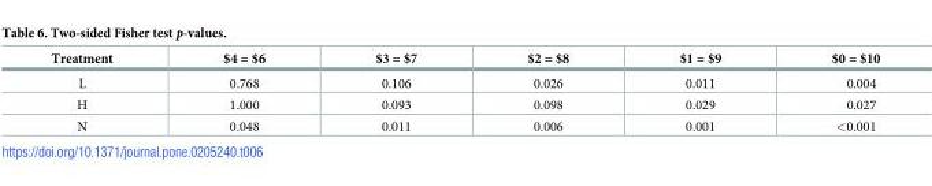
<table><thead><tr><td>Treatment</td><td>$4 = $6</td><td>$3 = $7</td><td>$2 = $8</td><td>$1 = $9</td><td>$0 = $10</td></tr></thead><tbody><tr><td>L</td><td>0.768</td><td>0.106</td><td>0.026</td><td>0.011</td><td>0.004</td></tr><tr><td>H</td><td>1.000</td><td>0.093</td><td>0.098</td><td>0.029</td><td>0.027</td></tr><tr><td>N</td><td>0.048</td><td>0.011</td><td>0.006</td><td>0.001</td><td>&lt;0.001</td></tr></tbody></table>